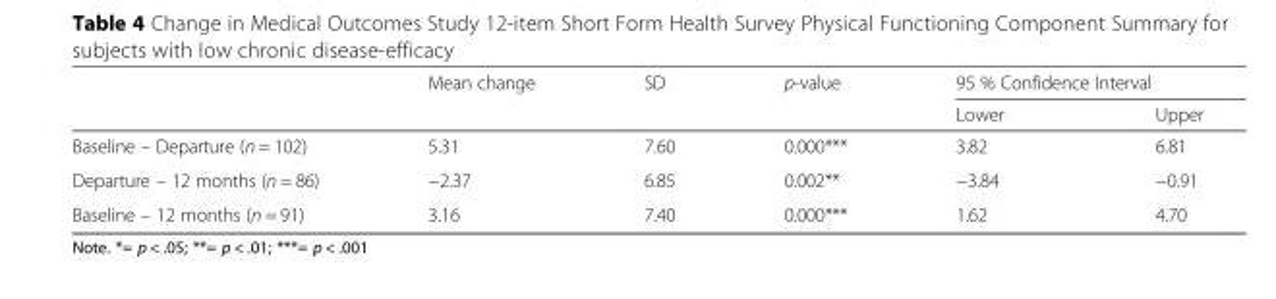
<table><thead><tr><td rowspan="2"></td><td rowspan="2">Mean change</td><td rowspan="2">SD</td><td rowspan="2">p-value</td><td colspan="2">95 % Confidence Interval</td></tr><tr><td>Lower</td><td>Upper</td></tr></thead><tbody><tr><td>Baseline – Departure (n = 102)</td><td>5.31</td><td>7.60</td><td>0.000***</td><td>3.82</td><td>6.81</td></tr><tr><td>Departure – 12 months (n = 86)</td><td>−2.37</td><td>6.85</td><td>0.002**</td><td>−3.84</td><td>−0.91</td></tr><tr><td>Baseline – 12 months (n = 91)</td><td>3.16</td><td>7.40</td><td>0.000***</td><td>1.62</td><td>4.70</td></tr></tbody></table>